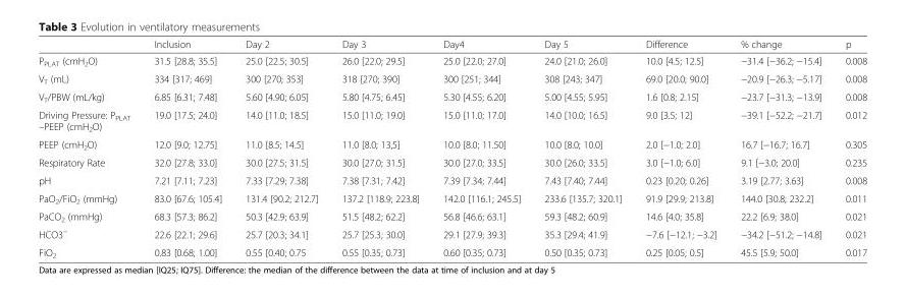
<table><thead><tr><td></td><td>Inclusion</td><td>Day 2</td><td>Day 3</td><td>Day4</td><td>Day 5</td><td>Difference</td><td>% change</td><td>p</td></tr></thead><tbody><tr><td>P<sub>PLAT</sub> (cmH<sub>2</sub>O)</td><td>31.5 [28.8; 35.5]</td><td>25.0 [22.5; 30.5]</td><td>26.0 [22.0; 29.5]</td><td>25.0 [22.0; 27.0]</td><td>24.0 [21.0; 26.0]</td><td>10.0 [4.5; 12.5]</td><td>−31.4 [−36.2; −15.4]</td><td>0.008</td></tr><tr><td>V<sub>T</sub> (mL)</td><td>334 [317; 469]</td><td>300 [270; 353]</td><td>318 [270; 390]</td><td>300 [251; 344]</td><td>308 [243; 347]</td><td>69.0 [20.0; 90.0]</td><td>−20.9 [−26.3; −5.17]</td><td>0.008</td></tr><tr><td>V<sub>T</sub>/PBW (mL/kg)</td><td>6.85 [6.31; 7.48]</td><td>5.60 [4.90; 6.05]</td><td>5.80 [4.75; 6.45]</td><td>5.30 [4.55; 6.20]</td><td>5.00 [4.55; 5.95]</td><td>1.6 [0.8; 2.15]</td><td>−23.7 [−31.3; −13.9]</td><td>0.008</td></tr><tr><td>Driving Pressure: P<sub>PLAT</sub> –PEEP (cmH<sub>2</sub>O)</td><td>19.0 [17.5; 24.0]</td><td>14.0 [11.0; 18.5]</td><td>15.0 [11.0; 19.0]</td><td>15.0 [11.0; 17.0]</td><td>14.0 [10.0; 16.5]</td><td>9.0 [3.5; 12]</td><td>−39.1 [−52.2; −21.7]</td><td>0.012</td></tr><tr><td>PEEP (cmH<sub>2</sub>O)</td><td>12.0 [9.0; 12.75]</td><td>11.0 [8.5; 14.5]</td><td>11.0 [8.0; 13,5]</td><td>10.0 [8.0; 11.50]</td><td>10.0 [8.0; 10.0]</td><td>2.0 [−1.0; 2.0]</td><td>16.7 [−16.7; 16.7]</td><td>0.305</td></tr><tr><td>Respiratory Rate</td><td>32.0 [27.8; 33.0]</td><td>30.0 [27.5; 31.5]</td><td>30.0 [27.0; 31.5]</td><td>30.0 [27.0; 33.5]</td><td>30.0 [26.0; 33.5]</td><td>3.0 [−1.0; 6.0]</td><td>9.1 [−3.0; 20.0]</td><td>0.235</td></tr><tr><td>pH</td><td>7.21 [7.11; 7.23]</td><td>7.33 [7.29; 7.38]</td><td>7.38 [7.31; 7.42]</td><td>7.39 [7.34; 7.44]</td><td>7.43 [7.40; 7.44]</td><td>0.23 [0.20; 0.26]</td><td>3.19 [2.77; 3.63]</td><td>0.008</td></tr><tr><td>PaO<sub>2</sub>/FiO<sub>2</sub> (mmHg)</td><td>83.0 [67.6; 105.4]</td><td>131.4 [90.2; 212.7]</td><td>137.2 [118.9; 223.8]</td><td>142.0 [116.1; 245.5]</td><td>233.6 [135.7; 320.1]</td><td>91.9 [29.9; 213.8]</td><td>144.0 [30.8; 232.2]</td><td>0.011</td></tr><tr><td>PaCO<sub>2</sub> (mmHg)</td><td>68.3 [57.3; 86.2]</td><td>50.3 [42.9; 63.9]</td><td>51.5 [48.2; 62.2]</td><td>56.8 [46.6; 63.1]</td><td>59.3 [48.2; 60.9]</td><td>14.6 [4.0; 35.8]</td><td>22.2 [6.9; 38.0]</td><td>0.021</td></tr><tr><td>HCO3<sup>−</sup></td><td>22.6 [22.1; 29.6]</td><td>25.7 [20.3; 34.1]</td><td>25.7 [25.3; 30.0]</td><td>29.1 [27.9; 39.3]</td><td>35.3 [29.4; 41.9]</td><td>−7.6 [−12.1; −3.2]</td><td>−34.2 [−51.2; −14.8]</td><td>0.021</td></tr><tr><td>FiO<sub>2</sub></td><td>0.83 [0.68; 1.00]</td><td>0.55 [0.40; 0.75</td><td>0.55 [0.35; 0.73]</td><td>0.60 [0.35; 0.73]</td><td>0.50 [0.35; 0.73]</td><td>0.25 [0.05; 0.5]</td><td>45.5 [5.9; 50.0]</td><td>0.017</td></tr></tbody></table>